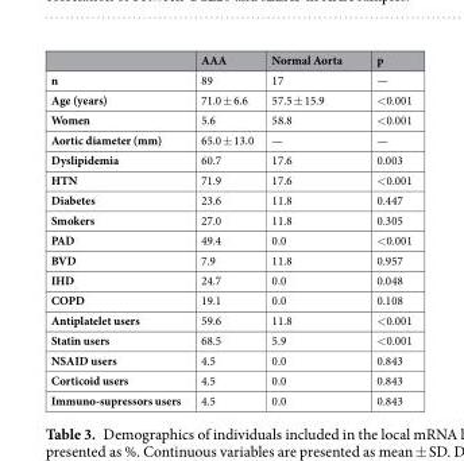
<table><thead><tr><td></td><td>AAA</td><td>Normal Aorta</td><td>p</td></tr></thead><tbody><tr><td>n</td><td>89</td><td>17</td><td>—</td></tr><tr><td>Age (years)</td><td>71.0 ± 6.6</td><td>57.5 ± 15.9</td><td>&lt;0.001</td></tr><tr><td>Women</td><td>5.6</td><td>58.8</td><td>&lt;0.001</td></tr><tr><td>Aortic diameter (mm)</td><td>65.0 ± 13.0</td><td>—</td><td>—</td></tr><tr><td>Dyslipidemia</td><td>60.7</td><td>17.6</td><td>0.003</td></tr><tr><td>HTN</td><td>71.9</td><td>17.6</td><td>&lt;0.001</td></tr><tr><td>Diabetes</td><td>23.6</td><td>11.8</td><td>0.447</td></tr><tr><td>Smokers</td><td>27.0</td><td>11.8</td><td>0.305</td></tr><tr><td>PAD</td><td>49.4</td><td>0.0</td><td>&lt;0.001</td></tr><tr><td>BVD</td><td>7.9</td><td>11.8</td><td>0.957</td></tr><tr><td>IHD</td><td>24.7</td><td>0.0</td><td>0.048</td></tr><tr><td>COPD</td><td>19.1</td><td>0.0</td><td>0.108</td></tr><tr><td>Antiplatelet users</td><td>59.6</td><td>11.8</td><td>&lt;0.001</td></tr><tr><td>Statin users</td><td>68.5</td><td>5.9</td><td>&lt;0.001</td></tr><tr><td>NSAID users</td><td>4.5</td><td>0.0</td><td>0.843</td></tr><tr><td>Corticoid users</td><td>4.5</td><td>0.0</td><td>0.843</td></tr><tr><td>Immuno-supressors users</td><td>4.5</td><td>0.0</td><td>0.843</td></tr></tbody></table>